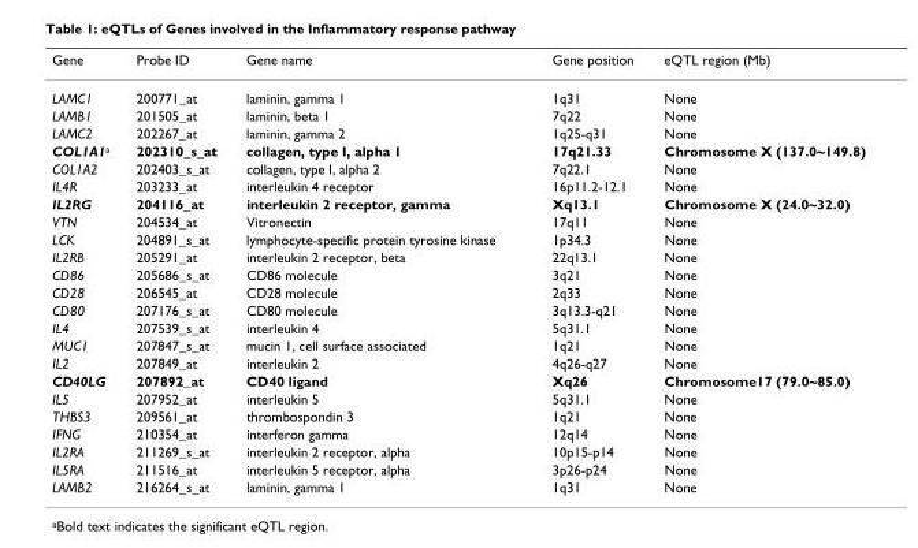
<table><thead><tr><td>Gene</td><td>Probe ID</td><td>Gene name</td><td>Gene position</td><td>eQTL region (Mb)</td></tr></thead><tbody><tr><td>LAMC1</td><td>200771_at</td><td>laminin, gamma 1</td><td>1q31</td><td>None</td></tr><tr><td>LAMB1</td><td>201505_at</td><td>laminin, beta 1</td><td>7q22</td><td>None</td></tr><tr><td>LAMC2</td><td>202267_at</td><td>laminin, gamma 2</td><td>1q25-q31</td><td>None</td></tr><tr><td>COL1A1<sup>a</sup></td><td>202310_s_at</td><td>collagen, type I, alpha 1</td><td>17q21.33</td><td>Chromosome X (137.0~149.8)</td></tr><tr><td>COL1A2</td><td>202403_s_at</td><td>collagen, type I, alpha 2</td><td>7q22.1</td><td>None</td></tr><tr><td>IL4R</td><td>203233_at</td><td>interleukin 4 receptor</td><td>16p11.2-12.1</td><td>None</td></tr><tr><td>IL2RG</td><td>204116_at</td><td>interleukin 2 receptor, gamma</td><td>Xq13.1</td><td>Chromosome X (24.0~32.0)</td></tr><tr><td>VTN</td><td>204534_at</td><td>Vitronectin</td><td>17q11</td><td>None</td></tr><tr><td>LCK</td><td>204891_s_at</td><td>lymphocyte-specific protein tyrosine kinase</td><td>1p34.3</td><td>None</td></tr><tr><td>IL2RB</td><td>205291_at</td><td>interleukin 2 receptor, beta</td><td>22q13.1</td><td>None</td></tr><tr><td>CD86</td><td>205686_s_at</td><td>CD86 molecule</td><td>3q21</td><td>None</td></tr><tr><td>CD28</td><td>206545_at</td><td>CD28 molecule</td><td>2q33</td><td>None</td></tr><tr><td>CD80</td><td>207176_s_at</td><td>CD80 molecule</td><td>3q13.3-q21</td><td>None</td></tr><tr><td>IL4</td><td>207539_s_at</td><td>interleukin 4</td><td>5q31.1</td><td>None</td></tr><tr><td>MUC1</td><td>207847_s_at</td><td>mucin 1, cell surface associated</td><td>1q21</td><td>None</td></tr><tr><td>IL2</td><td>207849_at</td><td>interleukin 2</td><td>4q26-q27</td><td>None</td></tr><tr><td>CD40LG</td><td>207892_at</td><td>CD40 ligand</td><td>Xq26</td><td>Chromosome17 (79.0~85.0)</td></tr><tr><td>IL5</td><td>207952_at</td><td>interleukin 5</td><td>5q31.1</td><td>None</td></tr><tr><td>THBS3</td><td>209561_at</td><td>thrombospondin 3</td><td>1q21</td><td>None</td></tr><tr><td>IFNG</td><td>210354_at</td><td>interferon gamma</td><td>12q14</td><td>None</td></tr><tr><td>IL2RA</td><td>211269_s_at</td><td>interleukin 2 receptor, alpha</td><td>10p15-p14</td><td>None</td></tr><tr><td>IL5RA</td><td>211516_at</td><td>interleukin 5 receptor, alpha</td><td>3p26-p24</td><td>None</td></tr><tr><td>LAMB2</td><td>216264_s_at</td><td>laminin, gamma 1</td><td>1q31</td><td>None</td></tr></tbody></table>